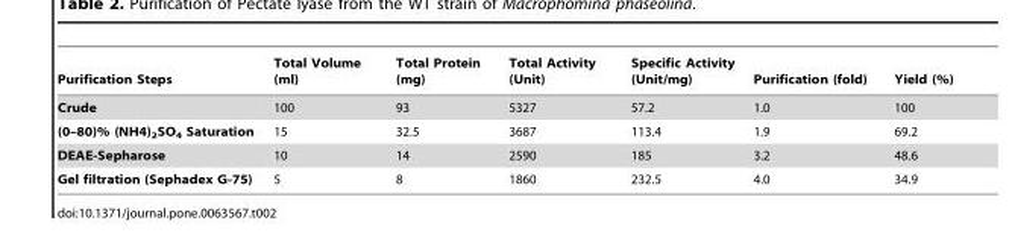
<table><thead><tr><td>Purification Steps</td><td>Total Volume (ml)</td><td>Total Protein (mg)</td><td>Total Activity (Unit)</td><td>Specific Activity (Unit/mg)</td><td>Purification (fold)</td><td>Yield (%)</td></tr></thead><tbody><tr><td>Crude</td><td>100</td><td>93</td><td>5327</td><td>57.2</td><td>1.0</td><td>100</td></tr><tr><td>(0–80)% (NH4)<sub>2</sub>SO<sub>4</sub> Saturation</td><td>15</td><td>32.5</td><td>3687</td><td>113.4</td><td>1.9</td><td>69.2</td></tr><tr><td>DEAE-Sepharose</td><td>10</td><td>14</td><td>2590</td><td>185</td><td>3.2</td><td>48.6</td></tr><tr><td>Gel filtration (Sephadex G-75)</td><td>5</td><td>8</td><td>1860</td><td>232.5</td><td>4.0</td><td>34.9</td></tr></tbody></table>